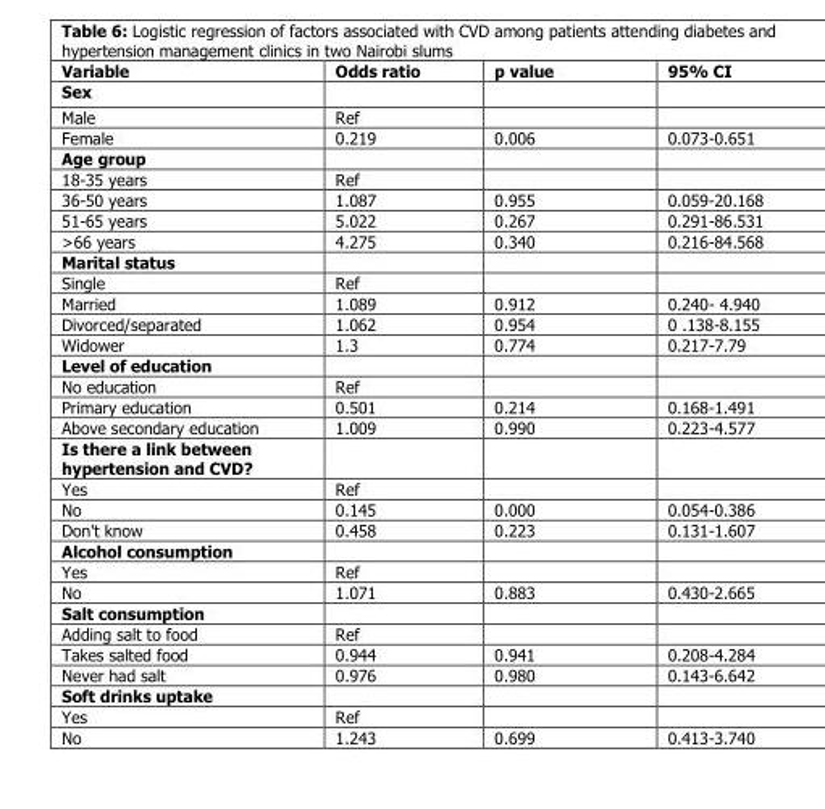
<table><thead><tr><td>Variable</td><td>Odds ratio</td><td>p value</td><td>95% CI</td></tr></thead><tbody><tr><td colspan="4">Sex</td></tr><tr><td>Male</td><td>Ref</td><td></td><td></td></tr><tr><td>Female</td><td>0.219</td><td>0.006</td><td>0.073-0.651</td></tr><tr><td colspan="4">Age group</td></tr><tr><td>18-35 years</td><td>Ref</td><td></td><td></td></tr><tr><td>36-50 years</td><td>1.087</td><td>0.955</td><td>0.059-20.168</td></tr><tr><td>51-65 years</td><td>5.022</td><td>0.267</td><td>0.291-86.531</td></tr><tr><td>&gt;66 years</td><td>4.275</td><td>0.340</td><td>0.216-84.568</td></tr><tr><td colspan="4">Marital status</td></tr><tr><td>Single</td><td>Ref</td><td></td><td></td></tr><tr><td>Married</td><td>1.089</td><td>0.912</td><td>0.240- 4.940</td></tr><tr><td>Divorced/separated</td><td>1.062</td><td>0.954</td><td>0 .138-8.155</td></tr><tr><td>Widower</td><td>1.3</td><td>0.774</td><td>0.217-7.79</td></tr><tr><td colspan="4">Level of education</td></tr><tr><td>No education</td><td>Ref</td><td></td><td></td></tr><tr><td>Primary education</td><td>0.501</td><td>0.214</td><td>0.168-1.491</td></tr><tr><td>Above secondary education</td><td>1.009</td><td>0.990</td><td>0.223-4.577</td></tr><tr><td colspan="4">Is there a link between hypertension and CVD?</td></tr><tr><td>Yes</td><td>Ref</td><td></td><td></td></tr><tr><td>No</td><td>0.145</td><td>0.000</td><td>0.054-0.386</td></tr><tr><td>Don&#x27;t know</td><td>0.458</td><td>0.223</td><td>0.131-1.607</td></tr><tr><td colspan="4">Alcohol consumption</td></tr><tr><td>Yes</td><td>Ref</td><td></td><td></td></tr><tr><td>No</td><td>1.071</td><td>0.883</td><td>0.430-2.665</td></tr><tr><td colspan="4">Salt consumption</td></tr><tr><td>Adding salt to food</td><td>Ref</td><td></td><td></td></tr><tr><td>Takes salted food</td><td>0.944</td><td>0.941</td><td>0.208-4.284</td></tr><tr><td>Never had salt</td><td>0.976</td><td>0.980</td><td>0.143-6.642</td></tr><tr><td colspan="4">Soft drinks uptake</td></tr><tr><td>Yes</td><td>Ref</td><td></td><td></td></tr><tr><td>No</td><td>1.243</td><td>0.699</td><td>0.413-3.740</td></tr></tbody></table>